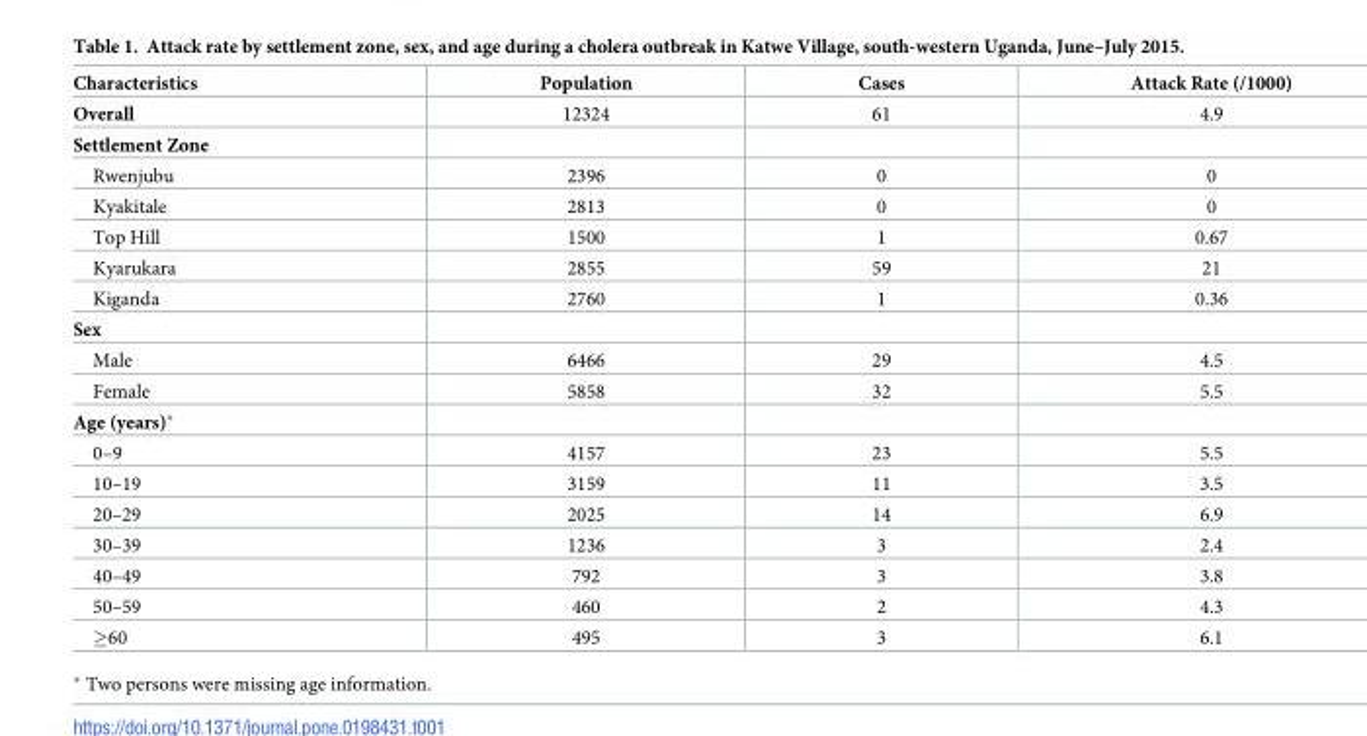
<table><thead><tr><td>Characteristics</td><td>Population</td><td>Cases</td><td>Attack Rate (/1000)</td></tr></thead><tbody><tr><td>Overall</td><td>12324</td><td>61</td><td>4.9</td></tr><tr><td colspan="4">Settlement Zone</td></tr><tr><td>Rwenjubu</td><td>2396</td><td>0</td><td>0</td></tr><tr><td>Kyakitale</td><td>2813</td><td>0</td><td>0</td></tr><tr><td>Top Hill</td><td>1500</td><td>1</td><td>0.67</td></tr><tr><td>Kyarukara</td><td>2855</td><td>59</td><td>21</td></tr><tr><td>Kiganda</td><td>2760</td><td>1</td><td>0.36</td></tr><tr><td colspan="4">Sex</td></tr><tr><td>Male</td><td>6466</td><td>29</td><td>4.5</td></tr><tr><td>Female</td><td>5858</td><td>32</td><td>5.5</td></tr><tr><td colspan="4">Age (years)*</td></tr><tr><td>0–9</td><td>4157</td><td>23</td><td>5.5</td></tr><tr><td>10–19</td><td>3159</td><td>11</td><td>3.5</td></tr><tr><td>20–29</td><td>2025</td><td>14</td><td>6.9</td></tr><tr><td>30–39</td><td>1236</td><td>3</td><td>2.4</td></tr><tr><td>40–49</td><td>792</td><td>3</td><td>3.8</td></tr><tr><td>50–59</td><td>460</td><td>2</td><td>4.3</td></tr><tr><td>≥60</td><td>495</td><td>3</td><td>6.1</td></tr></tbody></table>